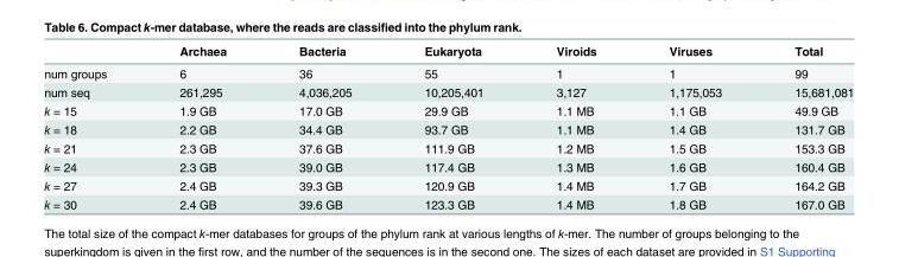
<table><thead><tr><td></td><td>Archaea</td><td>Bacteria</td><td>Eukaryota</td><td>Viroids</td><td>Viruses</td><td>Total</td></tr></thead><tbody><tr><td>num groups</td><td>6</td><td>36</td><td>55</td><td>1</td><td>1</td><td>99</td></tr><tr><td>num seq</td><td>261,295</td><td>4,036,205</td><td>10,205,401</td><td>3,127</td><td>1,175,053</td><td>15,681,081</td></tr><tr><td>k = 15</td><td>1.9 GB</td><td>17.0 GB</td><td>29.9 GB</td><td>1.1 MB</td><td>1.1 GB</td><td>49.9 GB</td></tr><tr><td>k = 18</td><td>2.2 GB</td><td>34.4 GB</td><td>93.7 GB</td><td>1.1 MB</td><td>1.4 GB</td><td>131.7 GB</td></tr><tr><td>k = 21</td><td>2.3 GB</td><td>37.6 GB</td><td>111.9 GB</td><td>1.2 MB</td><td>1.5 GB</td><td>153.3 GB</td></tr><tr><td>k = 24</td><td>2.3 GB</td><td>39.0 GB</td><td>117.4 GB</td><td>1.3 MB</td><td>1.6 GB</td><td>160.4 GB</td></tr><tr><td>k = 27</td><td>2.4 GB</td><td>39.3 GB</td><td>120.9 GB</td><td>1.4 MB</td><td>1.7 GB</td><td>164.2 GB</td></tr><tr><td>k = 30</td><td>2.4 GB</td><td>39.6 GB</td><td>123.3 GB</td><td>1.4 MB</td><td>1.8 GB</td><td>167.0 GB</td></tr></tbody></table>